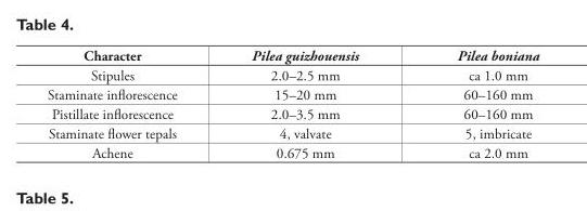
<table><thead><tr><td>Character</td><td>Pilea guizhouensis</td><td>Pilea boniana</td></tr></thead><tbody><tr><td>Stipules</td><td>2.0–2.5 mm</td><td>ca 1.0 mm</td></tr><tr><td>Staminate infl orescence</td><td>15–20 mm</td><td>60–160 mm</td></tr><tr><td>Pistillate infl orescence</td><td>2.0–3.5 mm</td><td>60–160 mm</td></tr><tr><td>Staminate fl ower tepals</td><td>4, valvate</td><td>5, imbricate</td></tr><tr><td>Achene</td><td>0.675 mm</td><td>ca 2.0 mm</td></tr></tbody></table>